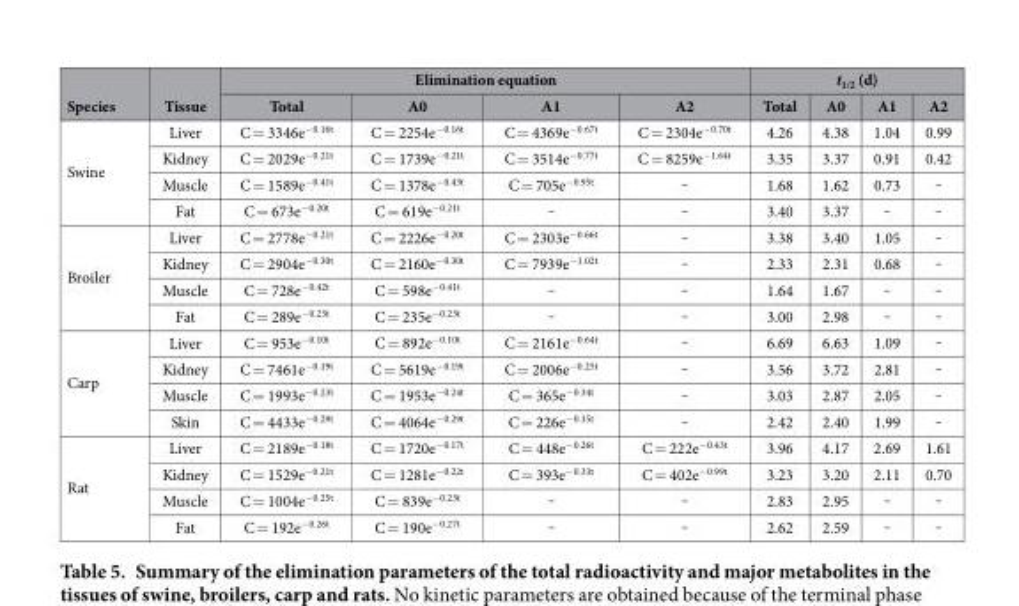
<table><thead><tr><td rowspan="2">Species</td><td rowspan="2">Tissue</td><td colspan="4">Elimination equation</td><td colspan="4">t<sub>1/2</sub> (d)</td></tr><tr><td>Total</td><td>A0</td><td>A1</td><td>A2</td><td>Total</td><td>A0</td><td>A1</td><td>A2</td></tr></thead><tbody><tr><td rowspan="4">Swine</td><td>Liver</td><td>C = 3346e<sup>−0.16t</sup></td><td>C = 2254e<sup>−0.16t</sup></td><td>C = 4369e<sup>−0.67t</sup></td><td>C = 2304e<sup>−0.70t</sup></td><td>4.26</td><td>4.38</td><td>1.04</td><td>0.99</td></tr><tr><td>Kidney</td><td>C = 2029e<sup>−0.21t</sup></td><td>C = 1739e<sup>−0.21t</sup></td><td>C = 3514e<sup>−0.77t</sup></td><td>C = 8259e<sup>−1.64t</sup></td><td>3.35</td><td>3.37</td><td>0.91</td><td>0.42</td></tr><tr><td>Muscle</td><td>C = 1589e<sup>−0.41t</sup></td><td>C = 1378e<sup>−0.43t</sup></td><td>C = 705e<sup>−0.95t</sup></td><td>‒</td><td>1.68</td><td>1.62</td><td>0.73</td><td>‒</td></tr><tr><td>Fat</td><td>C = 673e<sup>−0.20t</sup></td><td>C = 619e<sup>−0.21t</sup></td><td>‒</td><td>‒</td><td>3.40</td><td>3.37</td><td>‒</td><td>‒</td></tr><tr><td rowspan="4">Broiler</td><td>Liver</td><td>C = 2778e<sup>−0.21t</sup></td><td>C = 2226e<sup>−0.20t</sup></td><td>C = 2303e<sup>−0.66t</sup></td><td>‒</td><td>3.38</td><td>3.40</td><td>1.05</td><td>‒</td></tr><tr><td>Kidney</td><td>C = 2904e<sup>−0.30t</sup></td><td>C = 2160e<sup>−0.30t</sup></td><td>C = 7939e<sup>−1.02t</sup></td><td>‒</td><td>2.33</td><td>2.31</td><td>0.68</td><td>‒</td></tr><tr><td>Muscle</td><td>C = 728e<sup>−0.42t</sup></td><td>C = 598e<sup>−0.41t</sup></td><td>‒</td><td>‒</td><td>1.64</td><td>1.67</td><td>‒</td><td>‒</td></tr><tr><td>Fat</td><td>C = 289e<sup>−0.23t</sup></td><td>C = 235e<sup>−0.23t</sup></td><td>‒</td><td>‒</td><td>3.00</td><td>2.98</td><td>‒</td><td>‒</td></tr><tr><td rowspan="4">Carp</td><td>Liver</td><td>C = 953e<sup>−0.10t</sup></td><td>C = 892e<sup>−0.10t</sup></td><td>C = 2161e<sup>−0.64t</sup></td><td>‒</td><td>6.69</td><td>6.63</td><td>1.09</td><td>‒</td></tr><tr><td>Kidney</td><td>C = 7461e<sup>−0.19t</sup></td><td>C = 5619e<sup>−0.19t</sup></td><td>C = 2006e<sup>−0.25t</sup></td><td>‒</td><td>3.56</td><td>3.72</td><td>2.81</td><td>‒</td></tr><tr><td>Muscle</td><td>C = 1993e<sup>−0.23t</sup></td><td>C = 1953e<sup>−0.24t</sup></td><td>C = 365e<sup>−0.34t</sup></td><td>‒</td><td>3.03</td><td>2.87</td><td>2.05</td><td>‒</td></tr><tr><td>Skin</td><td>C = 4433e<sup>−0.29t</sup></td><td>C = 4064e<sup>−0.29t</sup></td><td>C = 226e<sup>−0.35t</sup></td><td>‒</td><td>2.42</td><td>2.40</td><td>1.99</td><td>‒</td></tr><tr><td rowspan="4">Rat</td><td>Liver</td><td>C = 2189e<sup>−0.18t</sup></td><td>C = 1720e<sup>−0.17t</sup></td><td>C = 448e<sup>−0.26t</sup></td><td>C = 222e<sup>−0.43t</sup></td><td>3.96</td><td>4.17</td><td>2.69</td><td>1.61</td></tr><tr><td>Kidney</td><td>C = 1529e<sup>−0.21t</sup></td><td>C = 1281e<sup>−0.22t</sup></td><td>C = 393e<sup>−0.33t</sup></td><td>C = 402e<sup>−0.99t</sup></td><td>3.23</td><td>3.20</td><td>2.11</td><td>0.70</td></tr><tr><td>Muscle</td><td>C = 1004e<sup>−0.25t</sup></td><td>C = 839e<sup>−0.23t</sup></td><td>‒</td><td>‒</td><td>2.83</td><td>2.95</td><td>‒</td><td>‒</td></tr><tr><td>Fat</td><td>C = 192e<sup>−0.26t</sup></td><td>C = 190e<sup>−0.27t</sup></td><td>‒</td><td>‒</td><td>2.62</td><td>2.59</td><td>‒</td><td>‒</td></tr></tbody></table>